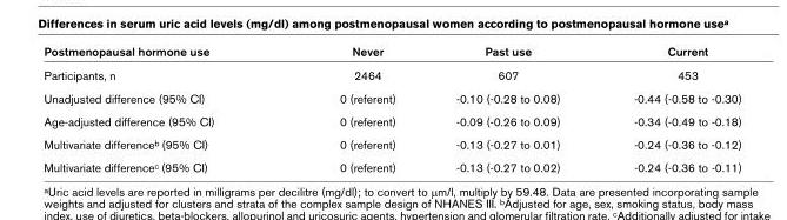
<table><thead><tr><td>Postmenopausal hormone use</td><td>Never</td><td>Past use</td><td>Current</td></tr></thead><tbody><tr><td>Participants, n</td><td>2464</td><td>607</td><td>453</td></tr><tr><td>Unadjusted difference (95% CI)</td><td>0 (referent)</td><td>-0.10 (-0.28 to 0.08)</td><td>-0.44 (-0.58 to -0.30)</td></tr><tr><td>Age-adjusted difference (95% CI)</td><td>0 (referent)</td><td>-0.09 (-0.26 to 0.09)</td><td>-0.34 (-0.49 to -0.18)</td></tr><tr><td>Multivariate difference<sup>b</sup> (95% CI)</td><td>0 (referent)</td><td>-0.13 (-0.27 to 0.01)</td><td>-0.24 (-0.36 to -0.12)</td></tr><tr><td>Multivariate difference<sup>c</sup> (95% CI)</td><td>0 (referent)</td><td>-0.13 (-0.27 to 0.02)</td><td>-0.24 (-0.36 to -0.11)</td></tr></tbody></table>